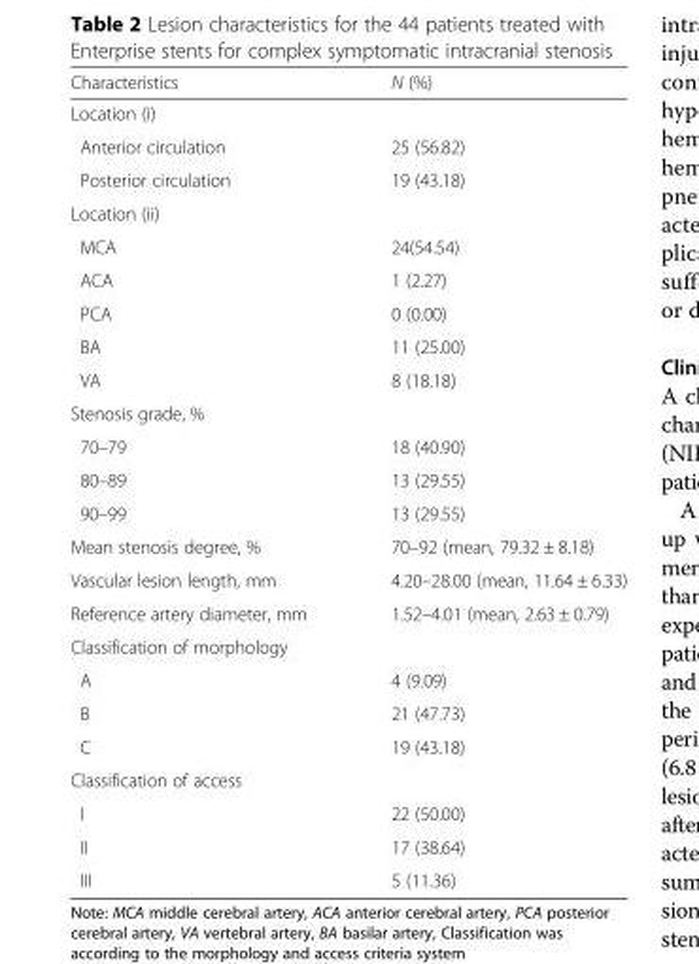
<table><thead><tr><td>Characteristics</td><td>N (%)</td></tr></thead><tbody><tr><td colspan="2">Location (i)</td></tr><tr><td>Anterior circulation</td><td>25 (56.82)</td></tr><tr><td>Posterior circulation</td><td>19 (43.18)</td></tr><tr><td colspan="2">Location (ii)</td></tr><tr><td>MCA</td><td>24(54.54)</td></tr><tr><td>ACA</td><td>1 (2.27)</td></tr><tr><td>PCA</td><td>0 (0.00)</td></tr><tr><td>BA</td><td>11 (25.00)</td></tr><tr><td>VA</td><td>8 (18.18)</td></tr><tr><td colspan="2">Stenosis grade, %</td></tr><tr><td>70–79</td><td>18 (40.90)</td></tr><tr><td>80–89</td><td>13 (29.55)</td></tr><tr><td>90–99</td><td>13 (29.55)</td></tr><tr><td>Mean stenosis degree, %</td><td>70–92 (mean, 79.32 ± 8.18)</td></tr><tr><td>Vascular lesion length, mm</td><td>4.20–28.00 (mean, 11.64 ± 6.33)</td></tr><tr><td>Reference artery diameter, mm</td><td>1.52–4.01 (mean, 2.63 ± 0.79)</td></tr><tr><td colspan="2">Classification of morphology</td></tr><tr><td>A</td><td>4 (9.09)</td></tr><tr><td>B</td><td>21 (47.73)</td></tr><tr><td>C</td><td>19 (43.18)</td></tr><tr><td colspan="2">Classification of access</td></tr><tr><td>I</td><td>22 (50.00)</td></tr><tr><td>II</td><td>17 (38.64)</td></tr><tr><td>III</td><td>5 (11.36)</td></tr></tbody></table>